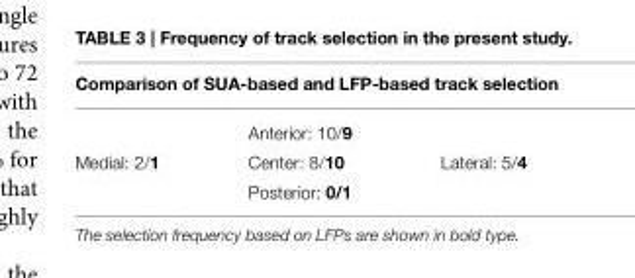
<table><thead><tr><td colspan="3">Comparison of SUA-based and LFP-based track selection</td></tr><tr><td></td><td>Anterior: 10/9</td><td></td></tr></thead><tbody><tr><td rowspan="2">Medial: 2/1</td><td>Center: 8/10</td><td>Lateral: 5/4</td></tr><tr><td>Posterior: 0/1</td><td></td></tr></tbody></table>